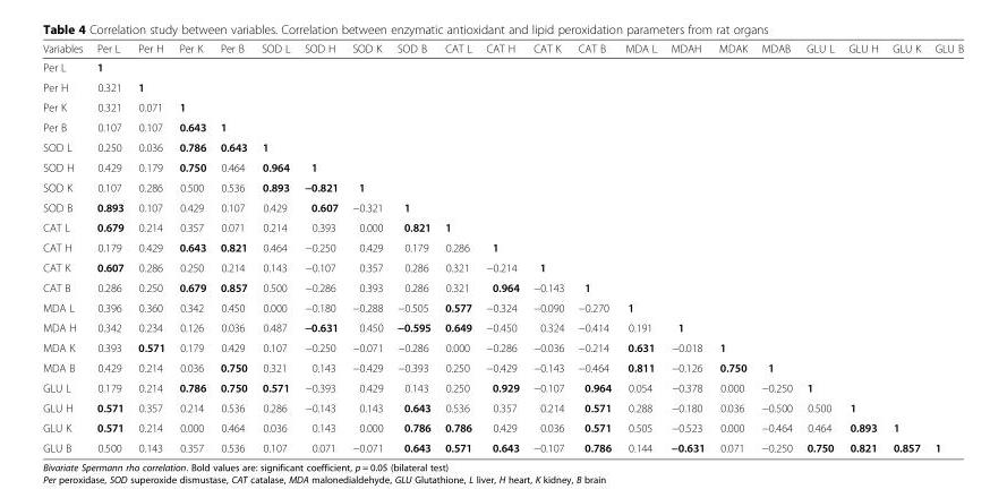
<table><thead><tr><td>Variables</td><td>Per L</td><td>Per H</td><td>Per K</td><td>Per B</td><td>SOD L</td><td>SOD H</td><td>SOD K</td><td>SOD B</td><td>CAT L</td><td>CAT H</td><td>CAT K</td><td>CAT B</td><td>MDA L</td><td>MDAH</td><td>MDAK</td><td>MDAB</td><td>GLU L</td><td>GLU H</td><td>GLU K</td><td>GLU B</td></tr></thead><tbody><tr><td>Per L</td><td>1</td><td></td><td></td><td></td><td></td><td></td><td></td><td></td><td></td><td></td><td></td><td></td><td></td><td></td><td></td><td></td><td></td><td></td><td></td><td></td></tr><tr><td>Per H</td><td>0.321</td><td>1</td><td></td><td></td><td></td><td></td><td></td><td></td><td></td><td></td><td></td><td></td><td></td><td></td><td></td><td></td><td></td><td></td><td></td><td></td></tr><tr><td>Per K</td><td>0.321</td><td>0.071</td><td>1</td><td></td><td></td><td></td><td></td><td></td><td></td><td></td><td></td><td></td><td></td><td></td><td></td><td></td><td></td><td></td><td></td><td></td></tr><tr><td>Per B</td><td>0.107</td><td>0.107</td><td>0.643</td><td>1</td><td></td><td></td><td></td><td></td><td></td><td></td><td></td><td></td><td></td><td></td><td></td><td></td><td></td><td></td><td></td><td></td></tr><tr><td>SOD L</td><td>0.250</td><td>0.036</td><td>0.786</td><td>0.643</td><td>1</td><td></td><td></td><td></td><td></td><td></td><td></td><td></td><td></td><td></td><td></td><td></td><td></td><td></td><td></td><td></td></tr><tr><td>SOD H</td><td>0.429</td><td>0.179</td><td>0.750</td><td>0.464</td><td>0.964</td><td>1</td><td></td><td></td><td></td><td></td><td></td><td></td><td></td><td></td><td></td><td></td><td></td><td></td><td></td><td></td></tr><tr><td>SOD K</td><td>0.107</td><td>0.286</td><td>0.500</td><td>0.536</td><td>0.893</td><td>−0.821</td><td>1</td><td></td><td></td><td></td><td></td><td></td><td></td><td></td><td></td><td></td><td></td><td></td><td></td><td></td></tr><tr><td>SOD B</td><td>0.893</td><td>0.107</td><td>0.429</td><td>0.107</td><td>0.429</td><td>0.607</td><td>−0.321</td><td>1</td><td></td><td></td><td></td><td></td><td></td><td></td><td></td><td></td><td></td><td></td><td></td><td></td></tr><tr><td>CAT L</td><td>0.679</td><td>0.214</td><td>0.357</td><td>0.071</td><td>0.214</td><td>0.393</td><td>0.000</td><td>0.821</td><td>1</td><td></td><td></td><td></td><td></td><td></td><td></td><td></td><td></td><td></td><td></td><td></td></tr><tr><td>CAT H</td><td>0.179</td><td>0.429</td><td>0.643</td><td>0.821</td><td>0.464</td><td>−0.250</td><td>0.429</td><td>0.179</td><td>0.286</td><td>1</td><td></td><td></td><td></td><td></td><td></td><td></td><td></td><td></td><td></td><td></td></tr><tr><td>CAT K</td><td>0.607</td><td>0.286</td><td>0.250</td><td>0.214</td><td>0.143</td><td>−0.107</td><td>0.357</td><td>0.286</td><td>0.321</td><td>−0.214</td><td>1</td><td></td><td></td><td></td><td></td><td></td><td></td><td></td><td></td><td></td></tr><tr><td>CAT B</td><td>0.286</td><td>0.250</td><td>0.679</td><td>0.857</td><td>0.500</td><td>−0.286</td><td>0.393</td><td>0.286</td><td>0.321</td><td>0.964</td><td>−0.143</td><td>1</td><td></td><td></td><td></td><td></td><td></td><td></td><td></td><td></td></tr><tr><td>MDA L</td><td>0.396</td><td>0.360</td><td>0.342</td><td>0.450</td><td>0.000</td><td>−0.180</td><td>−0.288</td><td>−0.505</td><td>0.577</td><td>−0.324</td><td>−0.090</td><td>−0.270</td><td>1</td><td></td><td></td><td></td><td></td><td></td><td></td><td></td></tr><tr><td>MDA H</td><td>0.342</td><td>0.234</td><td>0.126</td><td>0.036</td><td>0.487</td><td>−0.631</td><td>0.450</td><td>−0.595</td><td>0.649</td><td>−0.450</td><td>0.324</td><td>−0.414</td><td>0.191</td><td>1</td><td></td><td></td><td></td><td></td><td></td><td></td></tr><tr><td>MDA K</td><td>0.393</td><td>0.571</td><td>0.179</td><td>0.429</td><td>0.107</td><td>−0.250</td><td>−0.071</td><td>−0.286</td><td>0.000</td><td>−0.286</td><td>−0.036</td><td>−0.214</td><td>0.631</td><td>−0.018</td><td>1</td><td></td><td></td><td></td><td></td><td></td></tr><tr><td>MDA B</td><td>0.429</td><td>0.214</td><td>0.036</td><td>0.750</td><td>0.321</td><td>0.143</td><td>−0.429</td><td>−0.393</td><td>0.250</td><td>−0.429</td><td>−0.143</td><td>−0.464</td><td>0.811</td><td>−0.126</td><td>0.750</td><td>1</td><td></td><td></td><td></td><td></td></tr><tr><td>GLU L</td><td>0.179</td><td>0.214</td><td>0.786</td><td>0.750</td><td>0.571</td><td>−0.393</td><td>0.429</td><td>0.143</td><td>0.250</td><td>0.929</td><td>−0.107</td><td>0.964</td><td>0.054</td><td>−0.378</td><td>0.000</td><td>−0.250</td><td>1</td><td></td><td></td><td></td></tr><tr><td>GLU H</td><td>0.571</td><td>0.357</td><td>0.214</td><td>0.536</td><td>0.286</td><td>−0.143</td><td>0.143</td><td>0.643</td><td>0.536</td><td>0.357</td><td>0.214</td><td>0.571</td><td>0.288</td><td>−0.180</td><td>0.036</td><td>−0.500</td><td>0.500</td><td>1</td><td></td><td></td></tr><tr><td>GLU K</td><td>0.571</td><td>0.214</td><td>0.000</td><td>0.464</td><td>0.036</td><td>0.143</td><td>0.000</td><td>0.786</td><td>0.786</td><td>0.429</td><td>0.036</td><td>0.571</td><td>0.505</td><td>−0.523</td><td>0.000</td><td>−0.464</td><td>0.464</td><td>0.893</td><td>1</td><td></td></tr><tr><td>GLU B</td><td>0.500</td><td>0.143</td><td>0.357</td><td>0.536</td><td>0.107</td><td>0.071</td><td>−0.071</td><td>0.643</td><td>0.571</td><td>0.643</td><td>−0.107</td><td>0.786</td><td>0.144</td><td>−0.631</td><td>0.071</td><td>−0.250</td><td>0.750</td><td>0.821</td><td>0.857</td><td>1</td></tr></tbody></table>